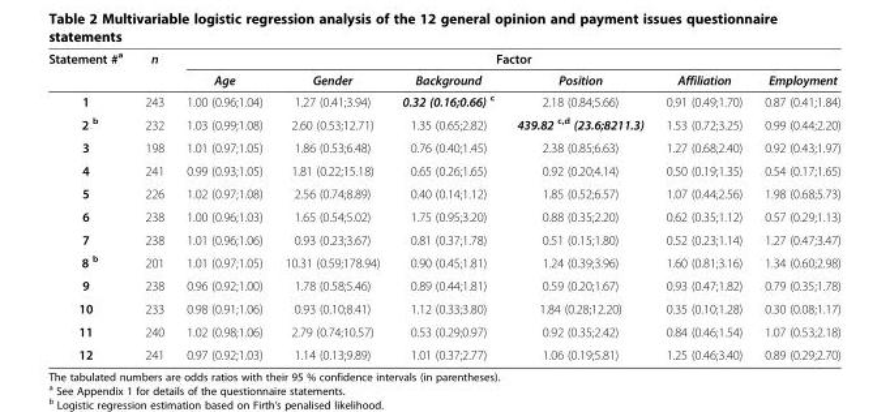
<table><thead><tr><td rowspan="2">Statement #<sup>a</sup></td><td rowspan="2">n</td><td colspan="6">Factor</td></tr><tr><td>Age</td><td>Gender</td><td>Background</td><td>Position</td><td>Affiliation</td><td>Employment</td></tr></thead><tbody><tr><td>1</td><td>243</td><td>1.00 (0.96;1.04)</td><td>1.27 (0.41;3.94)</td><td>0.32 (0.16;0.66) <sup>c</sup></td><td>2.18 (0.84;5.66)</td><td>0.91 (0.49;1.70)</td><td>0.87 (0.41;1.84)</td></tr><tr><td>2 <sup>b</sup></td><td>232</td><td>1.03 (0.99;1.08)</td><td>2.60 (0.53;12.71)</td><td>1.35 (0.65;2.82)</td><td>439.82 <sup>c,d</sup> (23.6;8211.3)</td><td>1.53 (0.72;3.25)</td><td>0.99 (0.44;2.20)</td></tr><tr><td>3</td><td>198</td><td>1.01 (0.97;1.05)</td><td>1.86 (0.53;6.48)</td><td>0.76 (0.40;1.45)</td><td>2.38 (0.85;6.63)</td><td>1.27 (0.68;2.40)</td><td>0.92 (0.43;1.97)</td></tr><tr><td>4</td><td>241</td><td>0.99 (0.93;1.05)</td><td>1.81 (0.22;15.18)</td><td>0.65 (0.26;1.65)</td><td>0.92 (0.20;4.14)</td><td>0.50 (0.19;1.35)</td><td>0.54 (0.17;1.65)</td></tr><tr><td>5</td><td>226</td><td>1.02 (0.97;1.08)</td><td>2.56 (0.74;8.89)</td><td>0.40 (0.14;1.12)</td><td>1.85 (0.52;6.57)</td><td>1.07 (0.44;2.56)</td><td>1.98 (0.68;5.73)</td></tr><tr><td>6</td><td>238</td><td>1.00 (0.96;1.03)</td><td>1.65 (0.54;5.02)</td><td>1.75 (0.95;3.20)</td><td>0.88 (0.35;2.20)</td><td>0.62 (0.35;1.12)</td><td>0.57 (0.29;1.13)</td></tr><tr><td>7</td><td>238</td><td>1.01 (0.96;1.06)</td><td>0.93 (0.23;3.67)</td><td>0.81 (0.37;1.78)</td><td>0.51 (0.15;1.80)</td><td>0.52 (0.23;1.14)</td><td>1.27 (0.47;3.47)</td></tr><tr><td>8 <sup>b</sup></td><td>201</td><td>1.01 (0.97;1.05)</td><td>10.31 (0.59;178.94)</td><td>0.90 (0.45;1.81)</td><td>1.24 (0.39;3.96)</td><td>1.60 (0.81;3.16)</td><td>1.34 (0.60;2.98)</td></tr><tr><td>9</td><td>238</td><td>0.96 (0.92;1.00)</td><td>1.78 (0.58;5.46)</td><td>0.89 (0.44;1.81)</td><td>0.59 (0.20;1.67)</td><td>0.93 (0.47;1.82)</td><td>0.79 (0.35;1.78)</td></tr><tr><td>10</td><td>233</td><td>0.98 (0.91;1.06)</td><td>0.93 (0.10;8.41)</td><td>1.12 (0.33;3.80)</td><td>1.84 (0.28;12.20)</td><td>0.35 (0.10;1.28)</td><td>0.30 (0.08;1.17)</td></tr><tr><td>11</td><td>240</td><td>1.02 (0.98;1.06)</td><td>2.79 (0.74;10.57)</td><td>0.53 (0.29;0.97)</td><td>0.92 (0.35;2.42)</td><td>0.84 (0.46;1.54)</td><td>1.07 (0.53;2.18)</td></tr><tr><td>12</td><td>241</td><td>0.97 (0.92;1.03)</td><td>1.14 (0.13;9.89)</td><td>1.01 (0.37;2.77)</td><td>1.06 (0.19;5.81)</td><td>1.25 (0.46;3.40)</td><td>0.89 (0.29;2.70)</td></tr></tbody></table>